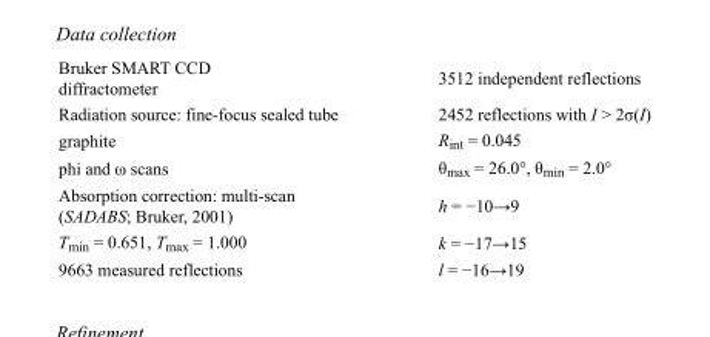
<table><tbody><tr><td>Bruker SMART CCD diffractometer</td><td>3512 independent reflections</td></tr><tr><td>Radiation source: fine-focus sealed tube</td><td>2452 reflections with I &gt; 2σ(I)</td></tr><tr><td>graphite</td><td>R<sub>int</sub> = 0.045</td></tr><tr><td>phi and ω scans</td><td>θ<sub>max</sub> = 26.0°, θ<sub>min</sub> = 2.0°</td></tr><tr><td>Absorption correction: multi-scan (SADABS; Bruker, 2001)</td><td>h = −10→9</td></tr><tr><td>T<sub>min</sub> = 0.651, T<sub>max</sub> = 1.000</td><td>k = −17→15</td></tr><tr><td>9663 measured reflections</td><td>l = −16→19</td></tr></tbody></table>